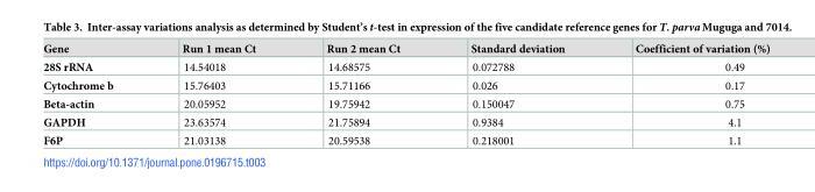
<table><thead><tr><td>Gene</td><td>Run 1 mean Ct</td><td>Run 2 mean Ct</td><td>Standard deviation</td><td>Coefficient of variation (%)</td></tr></thead><tbody><tr><td>28S rRNA</td><td>14.54018</td><td>14.68575</td><td>0.072788</td><td>0.49</td></tr><tr><td>Cytochrome b</td><td>15.76403</td><td>15.71166</td><td>0.026</td><td>0.17</td></tr><tr><td>Beta-actin</td><td>20.05952</td><td>19.75942</td><td>0.150047</td><td>0.75</td></tr><tr><td>GAPDH</td><td>23.63574</td><td>21.75894</td><td>0.9384</td><td>4.1</td></tr><tr><td>F6P</td><td>21.03138</td><td>20.59538</td><td>0.218001</td><td>1.1</td></tr></tbody></table>